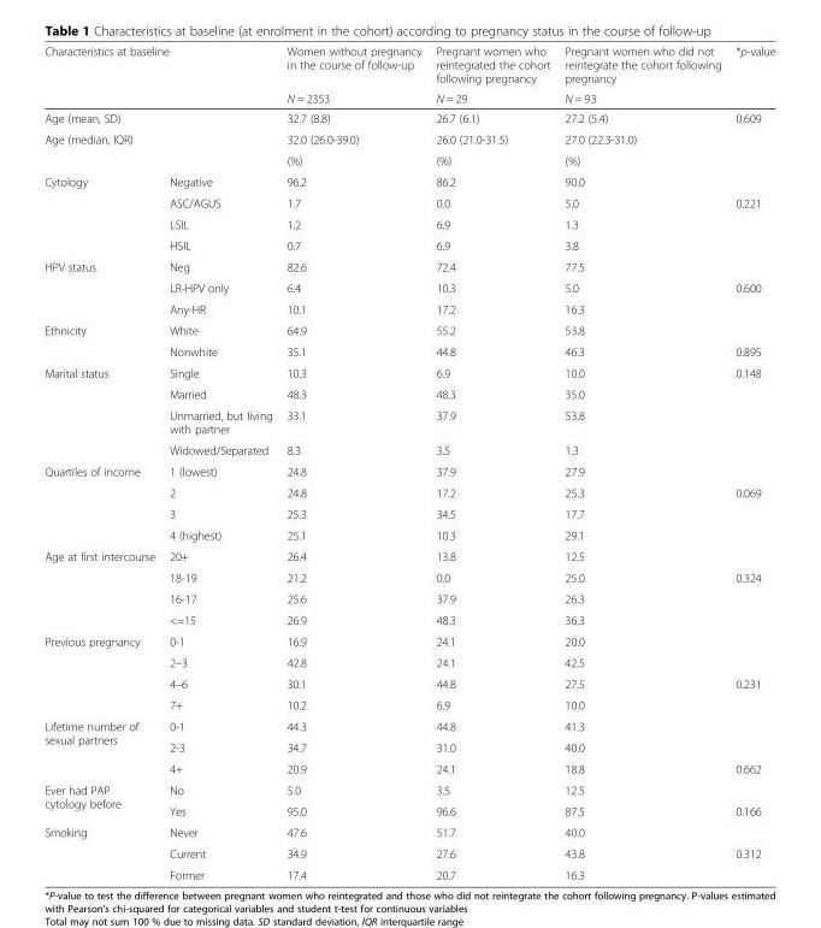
<table><thead><tr><td rowspan="4" colspan="2">Characteristics at baseline Age (mean, SD) Age (median, IQR)</td><td rowspan="5">Women without pregnancy in the course of follow-up N = 2353 32.7 (8.8) 32.0 (26.0-39.0) (%)</td><td rowspan="5">Pregnant women who reintegrated the cohort following pregnancy N = 29 26.7 (6.1) 26.0 (21.0-31.5) (%)</td><td rowspan="5">Pregnant women who did not reintegrate the cohort following pregnancy N = 93 27.2 (5.4) 27.0 (22.3-31.0) (%)</td><td rowspan="5">*p-value 0.609</td></tr><tr></tr><tr></tr><tr></tr><tr><td></td><td></td></tr></thead><tbody><tr><td rowspan="4">Cytology</td><td>Negative</td><td>96.2</td><td>86.2</td><td>90.0</td><td></td></tr><tr><td>ASC/AGUS</td><td>1.7</td><td>0.0</td><td>5.0</td><td>0.221</td></tr><tr><td>LSIL</td><td>1.2</td><td>6.9</td><td>1.3</td><td></td></tr><tr><td>HSIL</td><td>0.7</td><td>6.9</td><td>3.8</td><td></td></tr><tr><td rowspan="3">HPV status</td><td>Neg</td><td>82.6</td><td>72.4</td><td>77.5</td><td></td></tr><tr><td>LR-HPV only</td><td>6.4</td><td>10.3</td><td>5.0</td><td>0.600</td></tr><tr><td>Any-HR</td><td>10.1</td><td>17.2</td><td>16.3</td><td></td></tr><tr><td rowspan="2">Ethnicity</td><td>White</td><td>64.9</td><td>55.2</td><td>53.8</td><td></td></tr><tr><td>Nonwhite</td><td>35.1</td><td>44.8</td><td>46.3</td><td>0.895</td></tr><tr><td rowspan="4">Marital status</td><td>Single</td><td>10.3</td><td>6.9</td><td>10.0</td><td>0.148</td></tr><tr><td>Married</td><td>48.3</td><td>48.3</td><td>35.0</td><td></td></tr><tr><td>Unmarried, but living with partner</td><td>33.1</td><td>37.9</td><td>53.8</td><td></td></tr><tr><td>Widowed/Separated</td><td>8.3</td><td>3.5</td><td>1.3</td><td></td></tr><tr><td rowspan="4">Quartiles of income</td><td>1 (lowest)</td><td>24.8</td><td>37.9</td><td>27.9</td><td></td></tr><tr><td>2</td><td>24.8</td><td>17.2</td><td>25.3</td><td>0.069</td></tr><tr><td>3</td><td>25.3</td><td>34.5</td><td>17.7</td><td></td></tr><tr><td>4 (highest)</td><td>25.1</td><td>10.3</td><td>29.1</td><td></td></tr><tr><td rowspan="4">Age at first intercourse</td><td>20+</td><td>26.4</td><td>13.8</td><td>12.5</td><td></td></tr><tr><td>18-19</td><td>21.2</td><td>0.0</td><td>25.0</td><td>0.324</td></tr><tr><td>16-17</td><td>25.6</td><td>37.9</td><td>26.3</td><td></td></tr><tr><td>&lt;=15</td><td>26.9</td><td>48.3</td><td>36.3</td><td></td></tr><tr><td rowspan="4">Previous pregnancy</td><td>0-1</td><td>16.9</td><td>24.1</td><td>20.0</td><td></td></tr><tr><td>2–3</td><td>42.8</td><td>24.1</td><td>42.5</td><td></td></tr><tr><td>4–6</td><td>30.1</td><td>44.8</td><td>27.5</td><td>0.231</td></tr><tr><td>7+</td><td>10.2</td><td>6.9</td><td>10.0</td><td></td></tr><tr><td rowspan="3">Lifetime number of sexual partners</td><td>0-1</td><td>44.3</td><td>44.8</td><td>41.3</td><td></td></tr><tr><td>2-3</td><td>34.7</td><td>31.0</td><td>40.0</td><td></td></tr><tr><td>4+</td><td>20.9</td><td>24.1</td><td>18.8</td><td>0.662</td></tr><tr><td rowspan="2">Ever had PAP cytology before</td><td>No</td><td>5.0</td><td>3.5</td><td>12.5</td><td></td></tr><tr><td>Yes</td><td>95.0</td><td>96.6</td><td>87.5</td><td>0.166</td></tr><tr><td rowspan="3">Smoking</td><td>Never</td><td>47.6</td><td>51.7</td><td>40.0</td><td></td></tr><tr><td>Current</td><td>34.9</td><td>27.6</td><td>43.8</td><td>0.312</td></tr><tr><td>Former</td><td>17.4</td><td>20.7</td><td>16.3</td><td></td></tr></tbody></table>